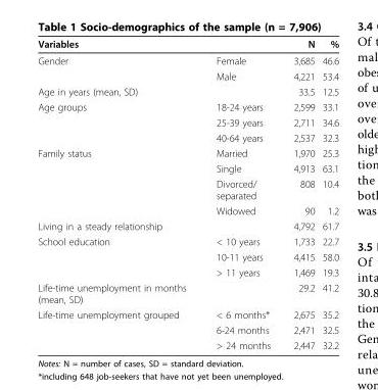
<table><thead><tr><td>Variables</td><td></td><td>N</td><td>%</td></tr></thead><tbody><tr><td rowspan="2">Gender</td><td>Female</td><td>3,685</td><td>46.6</td></tr><tr><td>Male</td><td>4,221</td><td>53.4</td></tr><tr><td>Age in years (mean, SD)</td><td></td><td>33.5</td><td>12.5</td></tr><tr><td rowspan="3">Age groups</td><td>18-24 years</td><td>2,599</td><td>33.1</td></tr><tr><td>25-39 years</td><td>2,711</td><td>34.6</td></tr><tr><td>40-64 years</td><td>2,537</td><td>32.3</td></tr><tr><td rowspan="4">Family status</td><td>Married</td><td>1,970</td><td>25.3</td></tr><tr><td>Single</td><td>4,913</td><td>63.1</td></tr><tr><td>Divorced/ separated</td><td>808</td><td>10.4</td></tr><tr><td>Widowed</td><td>90</td><td>1.2</td></tr><tr><td>Living in a steady relationship</td><td></td><td>4,792</td><td>61.7</td></tr><tr><td rowspan="3">School education</td><td>&lt; 10 years</td><td>1,733</td><td>22.7</td></tr><tr><td>10-11 years</td><td>4,415</td><td>58.0</td></tr><tr><td>&gt; 11 years</td><td>1,469</td><td>19.3</td></tr><tr><td>Life-time unemployment in months (mean, SD)</td><td></td><td>29.2</td><td>41.2</td></tr><tr><td rowspan="3">Life-time unemployment grouped</td><td>&lt; 6 months*</td><td>2,675</td><td>35.2</td></tr><tr><td>6-24 months</td><td>2,471</td><td>32.5</td></tr><tr><td>&gt; 24 months</td><td>2,447</td><td>32.2</td></tr></tbody></table>